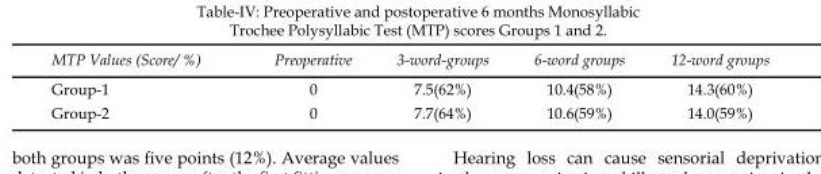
<table><thead><tr><td>MTP Values (Score/ %)</td><td>Preoperative</td><td>3-word-groups</td><td>6-word groups</td><td>12-word groups</td></tr></thead><tbody><tr><td>Group-1</td><td>0</td><td>7.5(62%)</td><td>10.4(58%)</td><td>14.3(60%)</td></tr><tr><td>Group-2</td><td>0</td><td>7.7(64%)</td><td>10.6(59%)</td><td>14.0(59%)</td></tr></tbody></table>